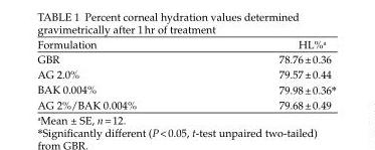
<table><thead><tr><td>Formulation</td><td>HL%<sup>a</sup></td></tr></thead><tbody><tr><td>GBR</td><td>78.76 ± 0.36</td></tr><tr><td>AG 2.0%</td><td>79.57 ± 0.44</td></tr><tr><td>BAK 0.004%</td><td>79.98 ± 0.36*</td></tr><tr><td>AG 2%/BAK 0.004%</td><td>79.68 ± 0.49</td></tr></tbody></table>